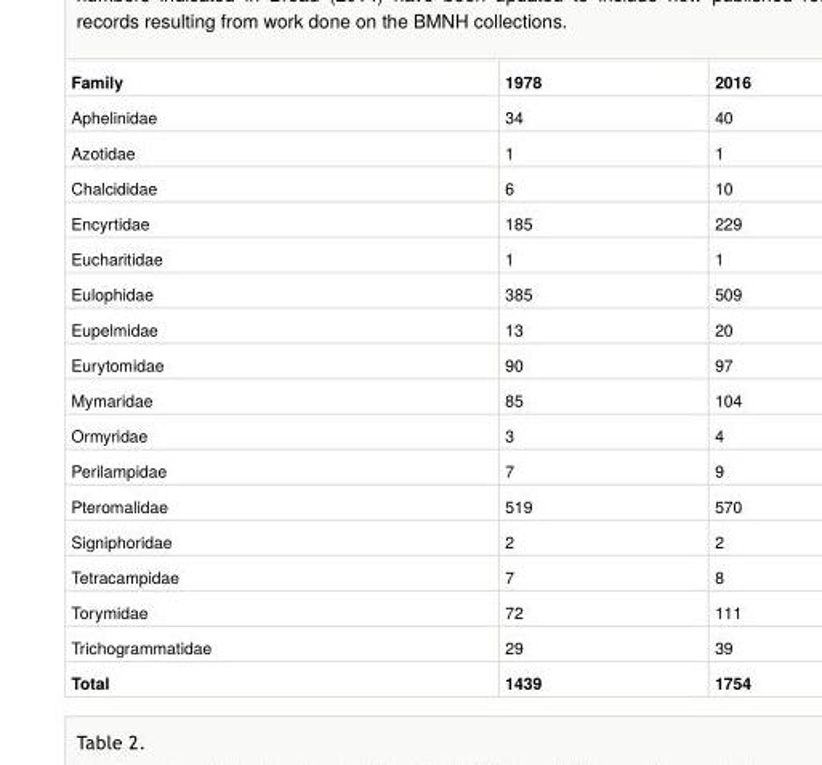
<table><tbody><tr><td>Family</td><td>1978</td><td>2016</td></tr><tr><td>Aphelinidae</td><td>34</td><td>40</td></tr><tr><td>Azotidae</td><td>1</td><td>1</td></tr><tr><td>Chalcididae</td><td>6</td><td>10</td></tr><tr><td>Encyrtidae</td><td>185</td><td>229</td></tr><tr><td>Eucharitidae</td><td>1</td><td>1</td></tr><tr><td>Eulophidae</td><td>385</td><td>509</td></tr><tr><td>Eupelmidae</td><td>13</td><td>20</td></tr><tr><td>Eurytomidae</td><td>90</td><td>97</td></tr><tr><td>Mymaridae</td><td>85</td><td>104</td></tr><tr><td>Ormyridae</td><td>3</td><td>4</td></tr><tr><td>Perilampidae</td><td>7</td><td>9</td></tr><tr><td>Pteromalidae</td><td>519</td><td>570</td></tr><tr><td>Signiphoridae</td><td>2</td><td>2</td></tr><tr><td>Tetracampidae</td><td>7</td><td>8</td></tr><tr><td>Torymidae</td><td>72</td><td>111</td></tr><tr><td>Trichogrammatidae</td><td>29</td><td>39</td></tr><tr><td>Total</td><td>1439</td><td>1754</td></tr></tbody></table>